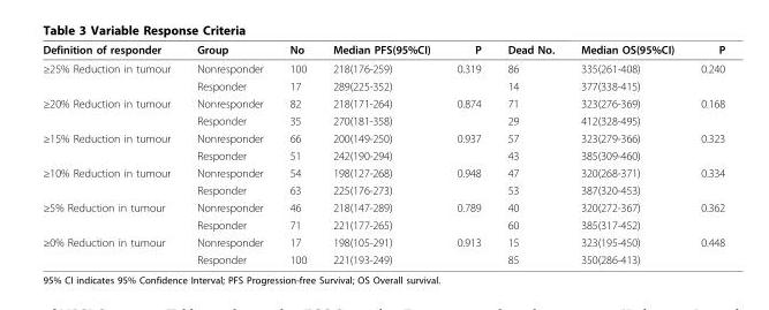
<table><thead><tr><td>Definition of responder</td><td>Group</td><td>No</td><td>Median PFS(95%CI)</td><td>P</td><td>Dead No.</td><td>Median OS(95%CI)</td><td>P</td></tr></thead><tbody><tr><td rowspan="2">≥25% Reduction in tumour</td><td>Nonresponder</td><td>100</td><td>218(176-259)</td><td>0.319</td><td>86</td><td>335(261-408)</td><td>0.240</td></tr><tr><td>Responder</td><td>17</td><td>289(225-352)</td><td></td><td>14</td><td>377(338-415)</td><td></td></tr><tr><td rowspan="2">≥20% Reduction in tumour</td><td>Nonresponder</td><td>82</td><td>218(171-264)</td><td>0.874</td><td>71</td><td>323(276-369)</td><td>0.168</td></tr><tr><td>Responder</td><td>35</td><td>270(181-358)</td><td></td><td>29</td><td>412(328-495)</td><td></td></tr><tr><td rowspan="2">≥15% Reduction in tumour</td><td>Nonresponder</td><td>66</td><td>200(149-250)</td><td>0.937</td><td>57</td><td>323(279-366)</td><td>0.323</td></tr><tr><td>Responder</td><td>51</td><td>242(190-294)</td><td></td><td>43</td><td>385(309-460)</td><td></td></tr><tr><td rowspan="2">≥10% Reduction in tumour</td><td>Nonresponder</td><td>54</td><td>198(127-268)</td><td>0.948</td><td>47</td><td>320(268-371)</td><td>0.334</td></tr><tr><td>Responder</td><td>63</td><td>225(176-273)</td><td></td><td>53</td><td>387(320-453)</td><td></td></tr><tr><td rowspan="2">≥5% Reduction in tumour</td><td>Nonresponder</td><td>46</td><td>218(147-289)</td><td>0.789</td><td>40</td><td>320(272-367)</td><td>0.362</td></tr><tr><td>Responder</td><td>71</td><td>221(177-265)</td><td></td><td>60</td><td>385(317-452)</td><td></td></tr><tr><td rowspan="2">≥0% Reduction in tumour</td><td>Nonresponder</td><td>17</td><td>198(105-291)</td><td>0.913</td><td>15</td><td>323(195-450)</td><td>0.448</td></tr><tr><td>Responder</td><td>100</td><td>221(193-249)</td><td></td><td>85</td><td>350(286-413)</td><td></td></tr></tbody></table>